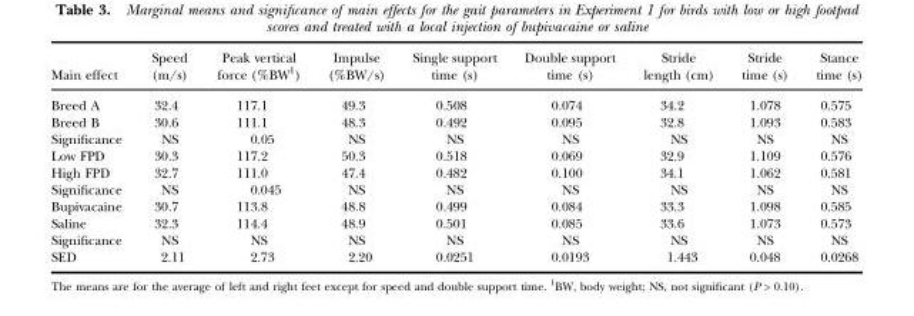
<table><thead><tr><td>Main effect</td><td>Speed (m/s)</td><td>Peak vertical force (%BW<sup>1</sup>)</td><td>Impulse (%BW/s)</td><td>Single support time (s)</td><td>Double support time (s)</td><td>Stride length (cm)</td><td>Stride time (s)</td><td>Stance time (s)</td></tr></thead><tbody><tr><td>Breed A</td><td>32.4</td><td>117.1</td><td>49.3</td><td>0.508</td><td>0.074</td><td>34.2</td><td>1.078</td><td>0.575</td></tr><tr><td>Breed B</td><td>30.6</td><td>111.1</td><td>48.3</td><td>0.492</td><td>0.095</td><td>32.8</td><td>1.093</td><td>0.583</td></tr><tr><td>Significance</td><td>NS</td><td>0.05</td><td>NS</td><td>NS</td><td>NS</td><td>NS</td><td>NS</td><td>NS</td></tr><tr><td>Low FPD</td><td>30.3</td><td>117.2</td><td>50.3</td><td>0.518</td><td>0.069</td><td>32.9</td><td>1.109</td><td>0.576</td></tr><tr><td>High FPD</td><td>32.7</td><td>111.0</td><td>47.4</td><td>0.482</td><td>0.100</td><td>34.1</td><td>1.062</td><td>0.581</td></tr><tr><td>Significance</td><td>NS</td><td>0.045</td><td>NS</td><td>NS</td><td>NS</td><td>NS</td><td>NS</td><td>NS</td></tr><tr><td>Bupivacaine</td><td>30.7</td><td>113.8</td><td>48.8</td><td>0.499</td><td>0.084</td><td>33.3</td><td>1.098</td><td>0.585</td></tr><tr><td>Saline</td><td>32.3</td><td>114.4</td><td>48.9</td><td>0.501</td><td>0.085</td><td>33.6</td><td>1.073</td><td>0.573</td></tr><tr><td>Significance</td><td>NS</td><td>NS</td><td>NS</td><td>NS</td><td>NS</td><td>NS</td><td>NS</td><td>NS</td></tr><tr><td>SED</td><td>2.11</td><td>2.73</td><td>2.20</td><td>0.0251</td><td>0.0193</td><td>1.443</td><td>0.048</td><td>0.0268</td></tr></tbody></table>